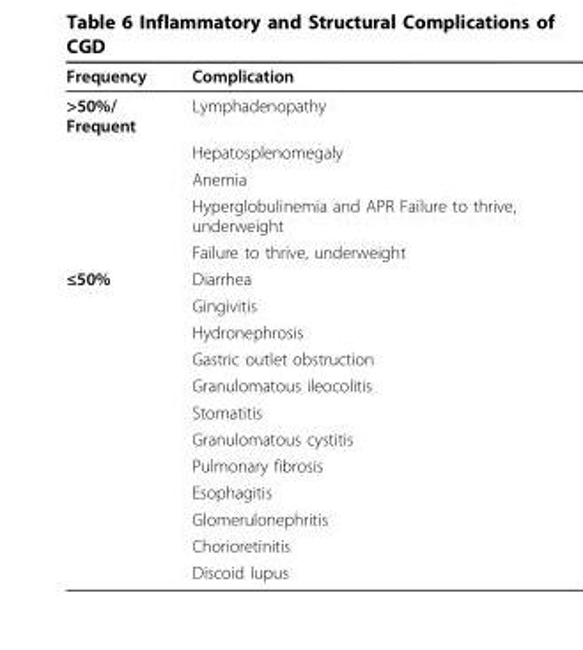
<table><thead><tr><td>Frequency</td><td>Complication</td></tr></thead><tbody><tr><td rowspan="5">&gt;50%/ Frequent</td><td>Lymphadenopathy</td></tr><tr><td>Hepatosplenomegaly</td></tr><tr><td>Anemia</td></tr><tr><td>Hyperglobulinemia and APR Failure to thrive, underweight</td></tr><tr><td>Failure to thrive, underweight</td></tr><tr><td rowspan="12">≤50%</td><td>Diarrhea</td></tr><tr><td>Gingivitis</td></tr><tr><td>Hydronephrosis</td></tr><tr><td>Gastric outlet obstruction</td></tr><tr><td>Granulomatous ileocolitis</td></tr><tr><td>Stomatitis</td></tr><tr><td>Granulomatous cystitis</td></tr><tr><td>Pulmonary fibrosis</td></tr><tr><td>Esophagitis</td></tr><tr><td>Glomerulonephritis</td></tr><tr><td>Chorioretinitis</td></tr><tr><td>Discoid lupus</td></tr></tbody></table>